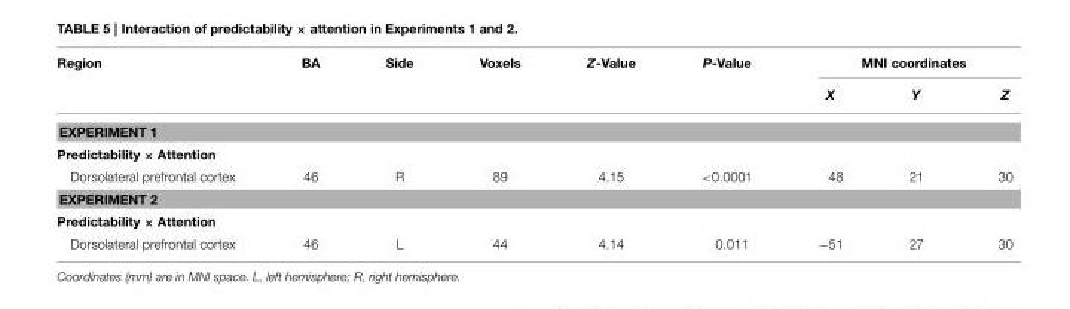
<table><thead><tr><td rowspan="2">Region</td><td rowspan="2">BA</td><td rowspan="2">Side</td><td rowspan="2">Voxels</td><td rowspan="2">Z-Value</td><td rowspan="2">P-Value</td><td colspan="3">MNI coordinates</td></tr><tr><td>X</td><td>Y</td><td>Z</td></tr></thead><tbody><tr><td colspan="9">EXPERIMENT 1</td></tr><tr><td colspan="9">Predictability × Attention</td></tr><tr><td>Dorsolateral prefrontal cortex</td><td>46</td><td>R</td><td>89</td><td>4.15</td><td>&lt;0.0001</td><td>48</td><td>21</td><td>30</td></tr><tr><td colspan="9">EXPERIMENT 2</td></tr><tr><td colspan="9">Predictability × Attention</td></tr><tr><td>Dorsolateral prefrontal cortex</td><td>46</td><td>L</td><td>44</td><td>4.14</td><td>0.011</td><td>−51</td><td>27</td><td>30</td></tr></tbody></table>